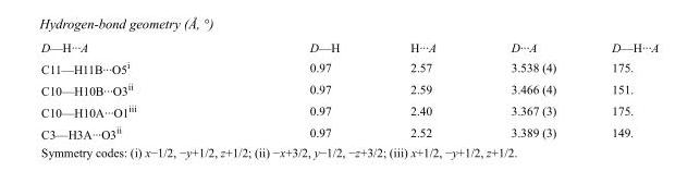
<table><tbody><tr><td>D—H···A</td><td>D—H</td><td>H···A</td><td>D···A</td><td>D—H···A</td></tr><tr><td>C11—H11B···O5<sup>i</sup></td><td>0.97</td><td>2.57</td><td>3.538 (4)</td><td>175.</td></tr><tr><td>C10—H10B···O3<sup>ii</sup></td><td>0.97</td><td>2.59</td><td>3.466 (4)</td><td>151.</td></tr><tr><td>C10—H10A···O1<sup>iii</sup></td><td>0.97</td><td>2.40</td><td>3.367 (3)</td><td>175.</td></tr><tr><td>C3—H3A···O3<sup>ii</sup></td><td>0.97</td><td>2.52</td><td>3.389 (3)</td><td>149.</td></tr></tbody></table>